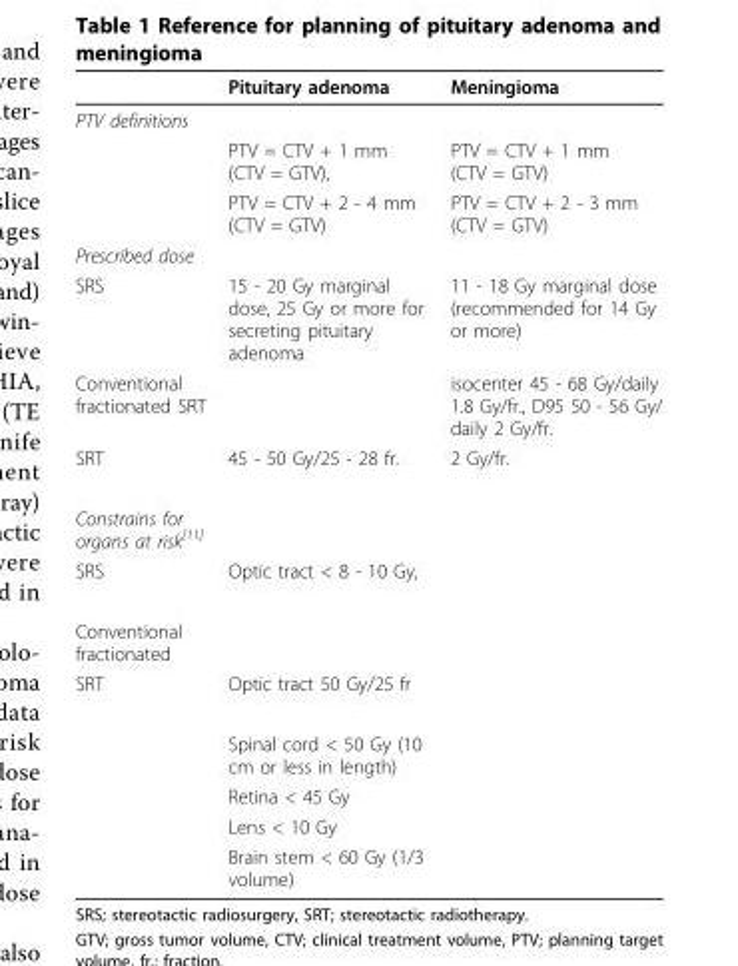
<table><thead><tr><td></td><td>Pituitary adenoma</td><td>Meningioma</td></tr></thead><tbody><tr><td colspan="3">PTV definitions</td></tr><tr><td></td><td>PTV = CTV + 1 mm (CTV = GTV),</td><td>PTV = CTV + 1 mm (CTV = GTV)</td></tr><tr><td></td><td>PTV = CTV + 2 - 4 mm (CTV = GTV)</td><td>PTV = CTV + 2 - 3 mm (CTV = GTV)</td></tr><tr><td colspan="3">Prescribed dose</td></tr><tr><td>SRS</td><td>15 - 20 Gy marginal dose, 25 Gy or more for secreting pituitary adenoma</td><td>11 - 18 Gy marginal dose (recommended for 14 Gy or more)</td></tr><tr><td>Conventional fractionated SRT</td><td></td><td>isocenter 45 - 68 Gy/daily 1.8 Gy/fr., D95 50 - 56 Gy/ daily 2 Gy/fr.</td></tr><tr><td>SRT</td><td>45 - 50 Gy/25 - 28 fr.</td><td>2 Gy/fr.</td></tr><tr><td colspan="3">Constrains for organs at risk<sup>[11]</sup></td></tr><tr><td>SRS</td><td>Optic tract &lt; 8 - 10 Gy,</td><td></td></tr><tr><td colspan="3">Conventional fractionated</td></tr><tr><td rowspan="5">SRT</td><td>Optic tract 50 Gy/25 fr</td><td></td></tr><tr><td>Spinal cord &lt; 50 Gy (10 cm or less in length)</td><td></td></tr><tr><td>Retina &lt; 45 Gy</td><td></td></tr><tr><td>Lens &lt; 10 Gy</td><td></td></tr><tr><td>Brain stem &lt; 60 Gy (1/3 volume)</td><td></td></tr></tbody></table>